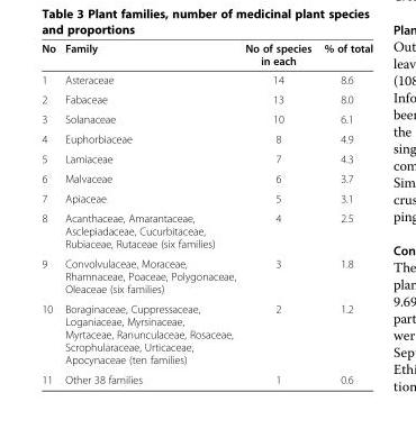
<table><thead><tr><td>No</td><td>Family</td><td>No of species in each</td><td>% of total</td></tr></thead><tbody><tr><td>1</td><td>Asteraceae</td><td>14</td><td>8.6</td></tr><tr><td>2</td><td>Fabaceae</td><td>13</td><td>8.0</td></tr><tr><td>3</td><td>Solanaceae</td><td>10</td><td>6.1</td></tr><tr><td>4</td><td>Euphorbiaceae</td><td>8</td><td>4.9</td></tr><tr><td>5</td><td>Lamiaceae</td><td>7</td><td>4.3</td></tr><tr><td>6</td><td>Malvaceae</td><td>6</td><td>3.7</td></tr><tr><td>7</td><td>Apiaceae</td><td>5</td><td>3.1</td></tr><tr><td>8</td><td>Acanthaceae, Amarantaceae, Asclepiadaceae, Cucurbitaceae, Rubiaceae, Rutaceae (six families)</td><td>4</td><td>2.5</td></tr><tr><td>9</td><td>Convolvulaceae, Moraceae, Rhamnaceae, Poaceae, Polygonaceae, Oleaceae (six families)</td><td>3</td><td>1.8</td></tr><tr><td>10</td><td>Boraginaceae, Cuppressaceae, Loganiaceae, Myrsinaceae, Myrtaceae, Ranunculaceae, Rosaceae, Scrophularaceae, Urticaceae, Apocynaceae (ten families)</td><td>2</td><td>1.2</td></tr><tr><td>11</td><td>Other 38 families</td><td>1</td><td>0.6</td></tr></tbody></table>